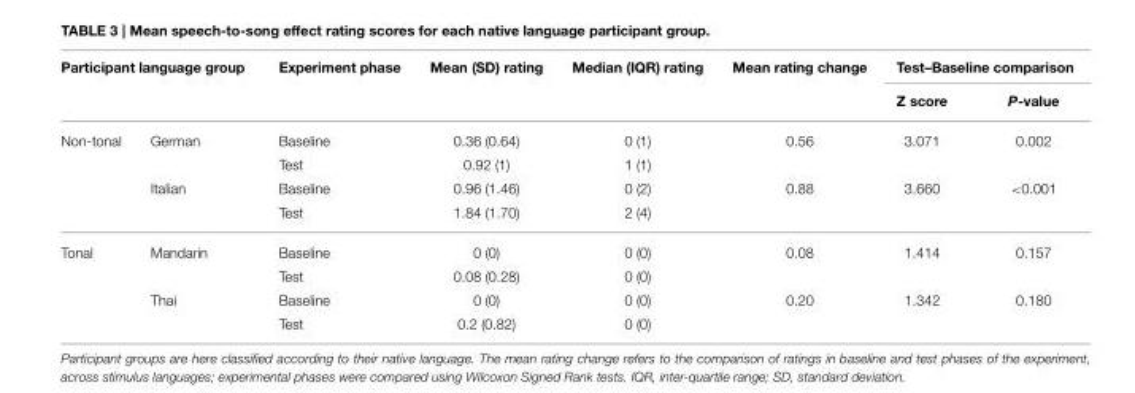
<table><thead><tr><td colspan="2">Participant language group</td><td rowspan="2">Experiment phase</td><td rowspan="2">Mean (SD) rating</td><td rowspan="2">Median (IQR) rating</td><td rowspan="2">Mean rating change</td><td colspan="2">Test–Baseline comparison</td></tr><tr><td></td><td></td><td>Z score</td><td>P-value</td></tr></thead><tbody><tr><td rowspan="4">Non-tonal</td><td>German</td><td>Baseline</td><td>0.36 (0.64)</td><td>0 (1)</td><td>0.56</td><td>3.071</td><td>0.002</td></tr><tr><td></td><td>Test</td><td>0.92 (1)</td><td>1 (1)</td><td></td><td></td><td></td></tr><tr><td>Italian</td><td>Baseline</td><td>0.96 (1.46)</td><td>0 (2)</td><td>0.88</td><td>3.660</td><td>&lt;0.001</td></tr><tr><td></td><td>Test</td><td>1.84 (1.70)</td><td>2 (4)</td><td></td><td></td><td></td></tr><tr><td rowspan="4">Tonal</td><td>Mandarin</td><td>Baseline</td><td>0 (0)</td><td>0 (0)</td><td>0.08</td><td>1.414</td><td>0.157</td></tr><tr><td></td><td>Test</td><td>0.08 (0.28)</td><td>0 (0)</td><td></td><td></td><td></td></tr><tr><td>Thai</td><td>Baseline</td><td>0 (0)</td><td>0 (0)</td><td>0.20</td><td>1.342</td><td>0.180</td></tr><tr><td></td><td>Test</td><td>0.2 (0.82)</td><td>0 (0)</td><td></td><td></td><td></td></tr></tbody></table>